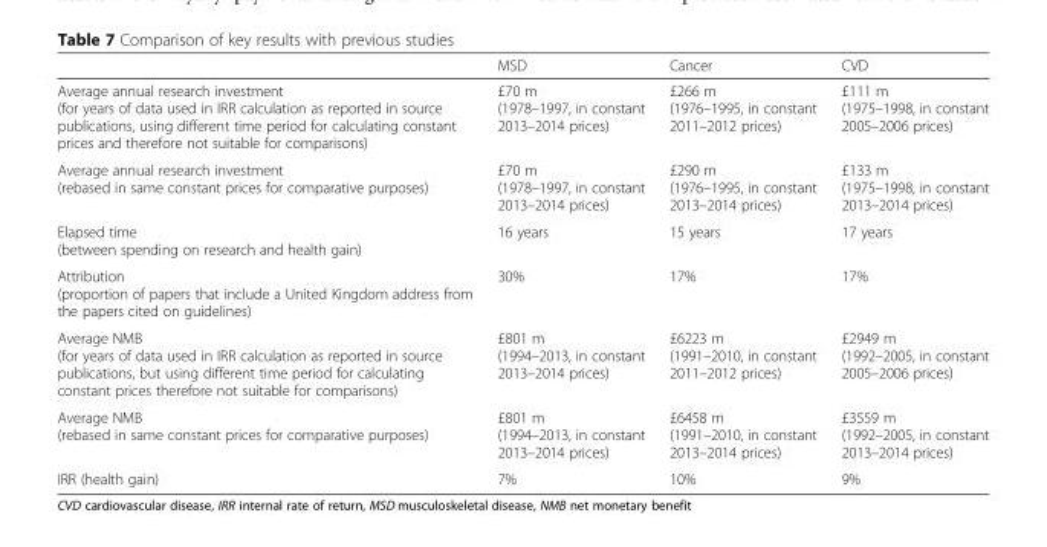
<table><thead><tr><td></td><td>MSD</td><td>Cancer</td><td>CVD</td></tr></thead><tbody><tr><td>Average annual research investment (for years of data used in IRR calculation as reported in source publications, using different time period for calculating constant prices and therefore not suitable for comparisons)</td><td>£70 m (1978–1997, in constant 2013–2014 prices)</td><td>£266 m (1976–1995, in constant 2011–2012 prices)</td><td>£111 m (1975–1998, in constant 2005–2006 prices)</td></tr><tr><td>Average annual research investment (rebased in same constant prices for comparative purposes)</td><td>£70 m (1978–1997, in constant 2013–2014 prices)</td><td>£290 m (1976–1995, in constant 2013–2014 prices)</td><td>£133 m (1975–1998, in constant 2013–2014 prices)</td></tr><tr><td>Elapsed time (between spending on research and health gain)</td><td>16 years</td><td>15 years</td><td>17 years</td></tr><tr><td>Attribution (proportion of papers that include a United Kingdom address from the papers cited on guidelines)</td><td>30%</td><td>17%</td><td>17%</td></tr><tr><td>Average NMB (for years of data used in IRR calculation as reported in source publications, but using different time period for calculating constant prices therefore not suitable for comparisons)</td><td>£801 m (1994–2013, in constant 2013–2014 prices)</td><td>£6223 m (1991–2010, in constant 2011–2012 prices)</td><td>£2949 m (1992–2005, in constant 2005–2006 prices)</td></tr><tr><td>Average NMB (rebased in same constant prices for comparative purposes)</td><td>£801 m (1994–2013, in constant 2013–2014 prices)</td><td>£6458 m (1991–2010, in constant 2013–2014 prices)</td><td>£3559 m (1992–2005, in constant 2013–2014 prices)</td></tr><tr><td>IRR (health gain)</td><td>7%</td><td>10%</td><td>9%</td></tr></tbody></table>